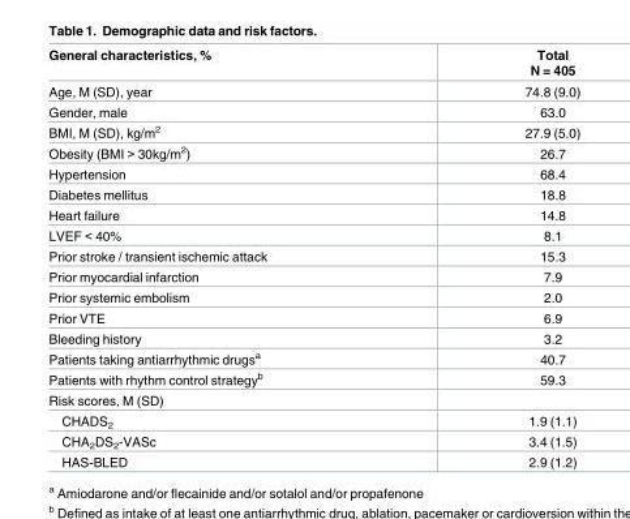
<table><thead><tr><td>General characteristics, %</td><td>Total N = 405</td></tr></thead><tbody><tr><td>Age, M (SD), year</td><td>74.8 (9.0)</td></tr><tr><td>Gender, male</td><td>63.0</td></tr><tr><td>BMI, M (SD), kg/m<sup>2</sup></td><td>27.9 (5.0)</td></tr><tr><td>Obesity (BMI &gt; 30kg/m<sup>2</sup>)</td><td>26.7</td></tr><tr><td>Hypertension</td><td>68.4</td></tr><tr><td>Diabetes mellitus</td><td>18.8</td></tr><tr><td>Heart failure</td><td>14.8</td></tr><tr><td>LVEF &lt; 40%</td><td>8.1</td></tr><tr><td>Prior stroke / transient ischemic attack</td><td>15.3</td></tr><tr><td>Prior myocardial infarction</td><td>7.9</td></tr><tr><td>Prior systemic embolism</td><td>2.0</td></tr><tr><td>Prior VTE</td><td>6.9</td></tr><tr><td>Bleeding history</td><td>3.2</td></tr><tr><td>Patients taking antiarrhythmic drugs<sup>a</sup></td><td>40.7</td></tr><tr><td>Patients with rhythm control strategy<sup>b</sup></td><td>59.3</td></tr><tr><td colspan="2">Risk scores, M (SD)</td></tr><tr><td>CHADS<sub>2</sub></td><td>1.9 (1.1)</td></tr><tr><td>CHA<sub>2</sub>DS<sub>2</sub>-VASc</td><td>3.4 (1.5)</td></tr><tr><td>HAS-BLED</td><td>2.9 (1.2)</td></tr></tbody></table>